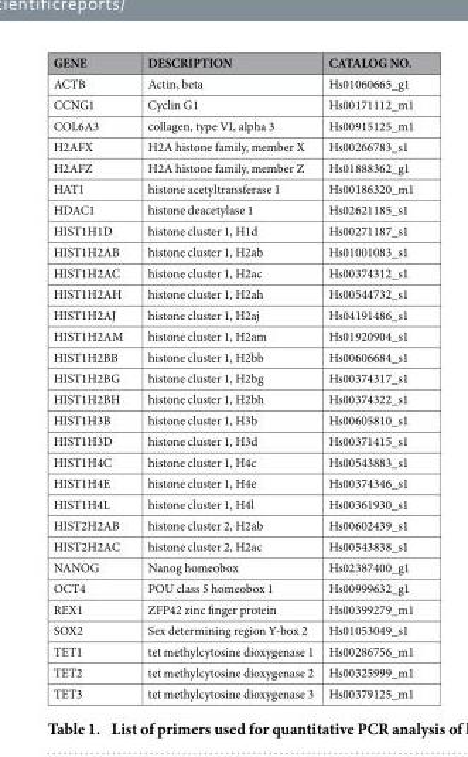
<table><thead><tr><td>GENE</td><td>DESCRIPTION</td><td>CATALOG NO.</td></tr></thead><tbody><tr><td>ACTB</td><td>Actin, beta</td><td>Hs01060665_g1</td></tr><tr><td>CCNG1</td><td>Cyclin G1</td><td>Hs00171112_m1</td></tr><tr><td>COL6A3</td><td>collagen, type VI, alpha 3</td><td>Hs00915125_m1</td></tr><tr><td>H2AFX</td><td>H2A histone family, member X</td><td>Hs00266783_s1</td></tr><tr><td>H2AFZ</td><td>H2A histone family, member Z</td><td>Hs01888362_g1</td></tr><tr><td>HAT1</td><td>histone acetyltransferase 1</td><td>Hs00186320_m1</td></tr><tr><td>HDAC1</td><td>histone deacetylase 1</td><td>Hs02621185_s1</td></tr><tr><td>HIST1H1D</td><td>histone cluster 1, H1d</td><td>Hs00271187_s1</td></tr><tr><td>HIST1H2AB</td><td>histone cluster 1, H2ab</td><td>Hs01001083_s1</td></tr><tr><td>HIST1H2AC</td><td>histone cluster 1, H2ac</td><td>Hs00374312_s1</td></tr><tr><td>HIST1H2AH</td><td>histone cluster 1, H2ah</td><td>Hs00544732_s1</td></tr><tr><td>HIST1H2AJ</td><td>histone cluster 1, H2aj</td><td>Hs04191486_s1</td></tr><tr><td>HIST1H2AM</td><td>histone cluster 1, H2am</td><td>Hs01920904_s1</td></tr><tr><td>HIST1H2BB</td><td>histone cluster 1, H2bb</td><td>Hs00606684_s1</td></tr><tr><td>HIST1H2BG</td><td>histone cluster 1, H2bg</td><td>Hs00374317_s1</td></tr><tr><td>HIST1H2BH</td><td>histone cluster 1, H2bh</td><td>Hs00374322_s1</td></tr><tr><td>HIST1H3B</td><td>histone cluster 1, H3b</td><td>Hs00605810_s1</td></tr><tr><td>HIST1H3D</td><td>histone cluster 1, H3d</td><td>Hs00371415_s1</td></tr><tr><td>HIST1H4C</td><td>histone cluster 1, H4c</td><td>Hs00543883_s1</td></tr><tr><td>HIST1H4E</td><td>histone cluster 1, H4e</td><td>Hs00374346_s1</td></tr><tr><td>HIST1H4L</td><td>histone cluster 1, H4l</td><td>Hs00361930_s1</td></tr><tr><td>HIST2H2AB</td><td>histone cluster 2, H2ab</td><td>Hs00602439_s1</td></tr><tr><td>HIST2H2AC</td><td>histone cluster 2, H2ac</td><td>Hs00543838_s1</td></tr><tr><td>NANOG</td><td>Nanog homeobox</td><td>Hs02387400_g1</td></tr><tr><td>OCT4</td><td>POU class 5 homeobox 1</td><td>Hs00999632_g1</td></tr><tr><td>REX1</td><td>ZFP42 zinc finger protein</td><td>Hs00399279_m1</td></tr><tr><td>SOX2</td><td>Sex determining region Y-box 2</td><td>Hs01053049_s1</td></tr><tr><td>TET1</td><td>tet methylcytosine dioxygenase 1</td><td>Hs00286756_m1</td></tr><tr><td>TET2</td><td>tet methylcytosine dioxygenase 2</td><td>Hs00325999_m1</td></tr><tr><td>TET3</td><td>tet methylcytosine dioxygenase 3</td><td>Hs00379125_m1</td></tr></tbody></table>